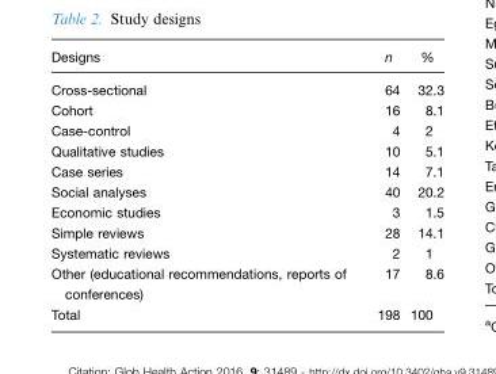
<table><thead><tr><td>Designs</td><td>n</td><td>%</td></tr></thead><tbody><tr><td>Cross-sectional</td><td>64</td><td>32.3</td></tr><tr><td>Cohort</td><td>16</td><td>8.1</td></tr><tr><td>Case-control</td><td>4</td><td>2</td></tr><tr><td>Qualitative studies</td><td>10</td><td>5.1</td></tr><tr><td>Case series</td><td>14</td><td>7.1</td></tr><tr><td>Social analyses</td><td>40</td><td>20.2</td></tr><tr><td>Economic studies</td><td>3</td><td>1.5</td></tr><tr><td>Simple reviews</td><td>28</td><td>14.1</td></tr><tr><td>Systematic reviews</td><td>2</td><td>1</td></tr><tr><td>Other (educational recommendations, reports of conferences)</td><td>17</td><td>8.6</td></tr><tr><td>Total</td><td>198</td><td>100</td></tr></tbody></table>